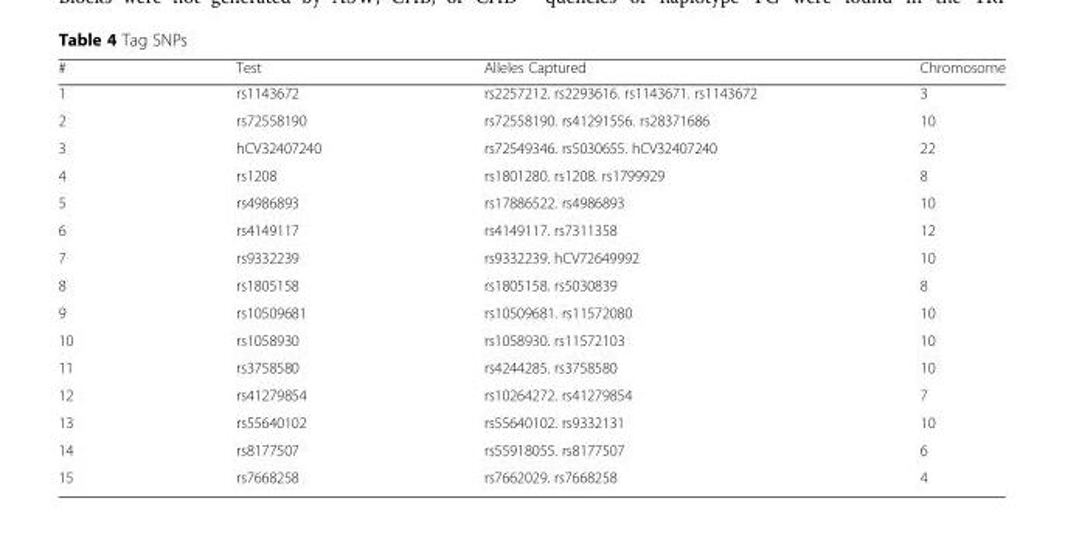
<table><thead><tr><td>#</td><td>Test</td><td>Alleles Captured</td><td>Chromosome</td></tr></thead><tbody><tr><td>1</td><td>rs1143672</td><td>rs2257212. rs2293616. rs1143671. rs1143672</td><td>3</td></tr><tr><td>2</td><td>rs72558190</td><td>rs72558190. rs41291556. rs28371686</td><td>10</td></tr><tr><td>3</td><td>hCV32407240</td><td>rs72549346. rs5030655. hCV32407240</td><td>22</td></tr><tr><td>4</td><td>rs1208</td><td>rs1801280. rs1208. rs1799929</td><td>8</td></tr><tr><td>5</td><td>rs4986893</td><td>rs17886522. rs4986893</td><td>10</td></tr><tr><td>6</td><td>rs4149117</td><td>rs4149117. rs7311358</td><td>12</td></tr><tr><td>7</td><td>rs9332239</td><td>rs9332239. hCV72649992</td><td>10</td></tr><tr><td>8</td><td>rs1805158</td><td>rs1805158. rs5030839</td><td>8</td></tr><tr><td>9</td><td>rs10509681</td><td>rs10509681. rs11572080</td><td>10</td></tr><tr><td>10</td><td>rs1058930</td><td>rs1058930. rs11572103</td><td>10</td></tr><tr><td>11</td><td>rs3758580</td><td>rs4244285. rs3758580</td><td>10</td></tr><tr><td>12</td><td>rs41279854</td><td>rs10264272. rs41279854</td><td>7</td></tr><tr><td>13</td><td>rs55640102</td><td>rs55640102. rs9332131</td><td>10</td></tr><tr><td>14</td><td>rs8177507</td><td>rs55918055. rs8177507</td><td>6</td></tr><tr><td>15</td><td>rs7668258</td><td>rs7662029. rs7668258</td><td>4</td></tr></tbody></table>